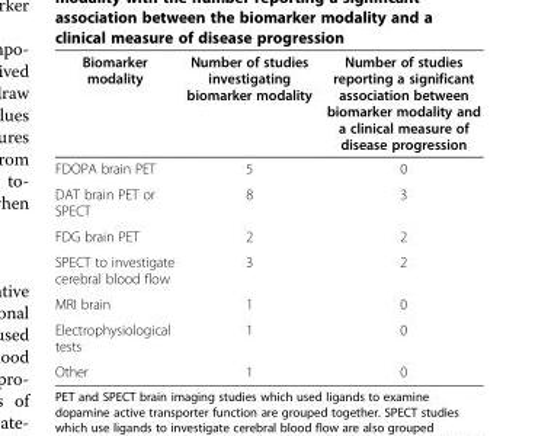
<table><thead><tr><td>Biomarker modality</td><td>Number of studies investigating biomarker modality</td><td>Number of studies reporting a significant association between biomarker modality and a clinical measure of disease progression</td></tr></thead><tbody><tr><td>FDOPA brain PET</td><td>5</td><td>0</td></tr><tr><td>DAT brain PET or SPECT</td><td>8</td><td>3</td></tr><tr><td>FDG brain PET</td><td>2</td><td>2</td></tr><tr><td>SPECT to investigate cerebral blood flow</td><td>3</td><td>2</td></tr><tr><td>MRI brain</td><td>1</td><td>0</td></tr><tr><td>Electrophysiological tests</td><td>1</td><td>0</td></tr><tr><td>Other</td><td>1</td><td>0</td></tr></tbody></table>